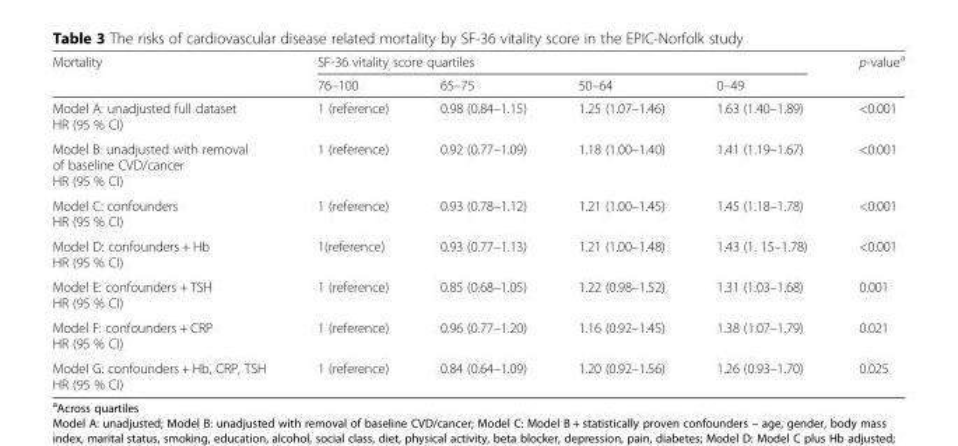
<table><thead><tr><td rowspan="2">Mortality</td><td colspan="4">SF-36 vitality score quartiles</td><td rowspan="2">p-value<sup>a</sup></td></tr><tr><td>76–100</td><td>65–75</td><td>50–64</td><td>0–49</td></tr></thead><tbody><tr><td>Model A: unadjusted full dataset HR (95 % CI)</td><td>1 (reference)</td><td>0.98 (0.84–1.15)</td><td>1.25 (1.07–1.46)</td><td>1.63 (1.40–1.89)</td><td>&lt;0.001</td></tr><tr><td>Model B: unadjusted with removal of baseline CVD/cancer HR (95 % CI)</td><td>1 (reference)</td><td>0.92 (0.77–1.09)</td><td>1.18 (1.00–1.40)</td><td>1.41 (1.19–1.67)</td><td>&lt;0.001</td></tr><tr><td>Model C: confounders HR (95 % CI)</td><td>1 (reference)</td><td>0.93 (0.78–1.12)</td><td>1.21 (1.00–1.45)</td><td>1.45 (1.18–1.78)</td><td>&lt;0.001</td></tr><tr><td>Model D: confounders + Hb HR (95 % CI)</td><td>1(reference)</td><td>0.93 (0.77–1.13)</td><td>1.21 (1.00–1.48)</td><td>1.43 (1. 15–1.78)</td><td>&lt;0.001</td></tr><tr><td>Model E: confounders + TSH HR (95 % CI)</td><td>1 (reference)</td><td>0.85 (0.68–1.05)</td><td>1.22 (0.98–1.52)</td><td>1.31 (1.03–1.68)</td><td>0.001</td></tr><tr><td>Model F: confounders + CRP HR (95 % CI)</td><td>1 (reference)</td><td>0.96 (0.77–1.20)</td><td>1.16 (0.92–1.45)</td><td>1.38 (1.07–1.79)</td><td>0.021</td></tr><tr><td>Model G: confounders + Hb, CRP, TSH HR (95 % CI)</td><td>1 (reference)</td><td>0.84 (0.64–1.09)</td><td>1.20 (0.92–1.56)</td><td>1.26 (0.93–1.70)</td><td>0.025</td></tr></tbody></table>